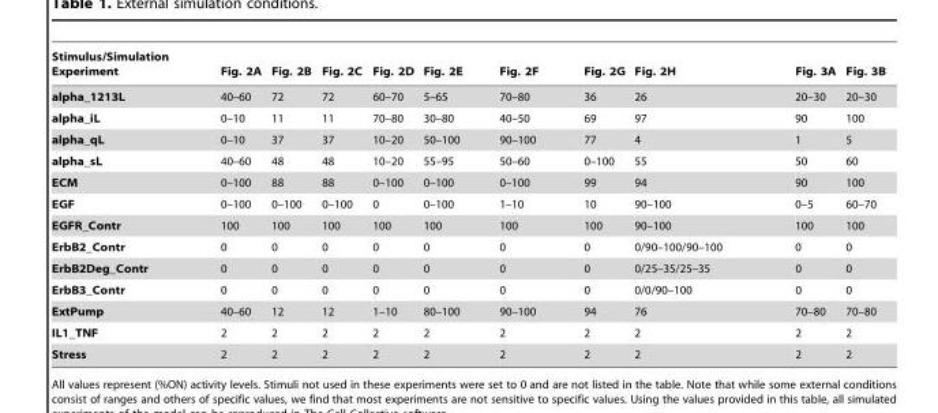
<table><thead><tr><td>Stimulus/Simulation Experiment</td><td>Fig. 2A</td><td>Fig. 2B</td><td>Fig. 2C</td><td>Fig. 2D</td><td>Fig. 2E</td><td>Fig. 2F</td><td>Fig. 2G</td><td>Fig. 2H</td><td>Fig. 3A</td><td>Fig. 3B</td></tr></thead><tbody><tr><td>alpha_1213L</td><td>40–60</td><td>72</td><td>72</td><td>60–70</td><td>5–65</td><td>70–80</td><td>36</td><td>26</td><td>20–30</td><td>20–30</td></tr><tr><td>alpha_iL</td><td>0–10</td><td>11</td><td>11</td><td>70–80</td><td>30–80</td><td>40–50</td><td>69</td><td>97</td><td>90</td><td>100</td></tr><tr><td>alpha_qL</td><td>0–10</td><td>37</td><td>37</td><td>10–20</td><td>50–100</td><td>90–100</td><td>77</td><td>4</td><td>1</td><td>5</td></tr><tr><td>alpha_sL</td><td>40–60</td><td>48</td><td>48</td><td>10–20</td><td>55–95</td><td>50–60</td><td>0–100</td><td>55</td><td>50</td><td>60</td></tr><tr><td>ECM</td><td>0–100</td><td>88</td><td>88</td><td>0–100</td><td>0–100</td><td>0–100</td><td>99</td><td>94</td><td>90</td><td>100</td></tr><tr><td>EGF</td><td>0–100</td><td>0–100</td><td>0–100</td><td>0</td><td>0–100</td><td>1–10</td><td>10</td><td>90–100</td><td>0–5</td><td>60–70</td></tr><tr><td>EGFR_Contr</td><td>100</td><td>100</td><td>100</td><td>100</td><td>100</td><td>100</td><td>100</td><td>90–100</td><td>100</td><td>100</td></tr><tr><td>ErbB2_Contr</td><td>0</td><td>0</td><td>0</td><td>0</td><td>0</td><td>0</td><td>0</td><td>0/90–100/90–100</td><td>0</td><td>0</td></tr><tr><td>ErbB2Deg_Contr</td><td>0</td><td>0</td><td>0</td><td>0</td><td>0</td><td>0</td><td>0</td><td>0/25–35/25–35</td><td>0</td><td>0</td></tr><tr><td>ErbB3_Contr</td><td>0</td><td>0</td><td>0</td><td>0</td><td>0</td><td>0</td><td>0</td><td>0/0/90–100</td><td>0</td><td>0</td></tr><tr><td>ExtPump</td><td>40–60</td><td>12</td><td>12</td><td>1–10</td><td>80–100</td><td>90–100</td><td>94</td><td>76</td><td>70–80</td><td>70–80</td></tr><tr><td>IL1_TNF</td><td>2</td><td>2</td><td>2</td><td>2</td><td>2</td><td>2</td><td>2</td><td>2</td><td>2</td><td>2</td></tr><tr><td>Stress</td><td>2</td><td>2</td><td>2</td><td>2</td><td>2</td><td>2</td><td>2</td><td>2</td><td>2</td><td>2</td></tr></tbody></table>